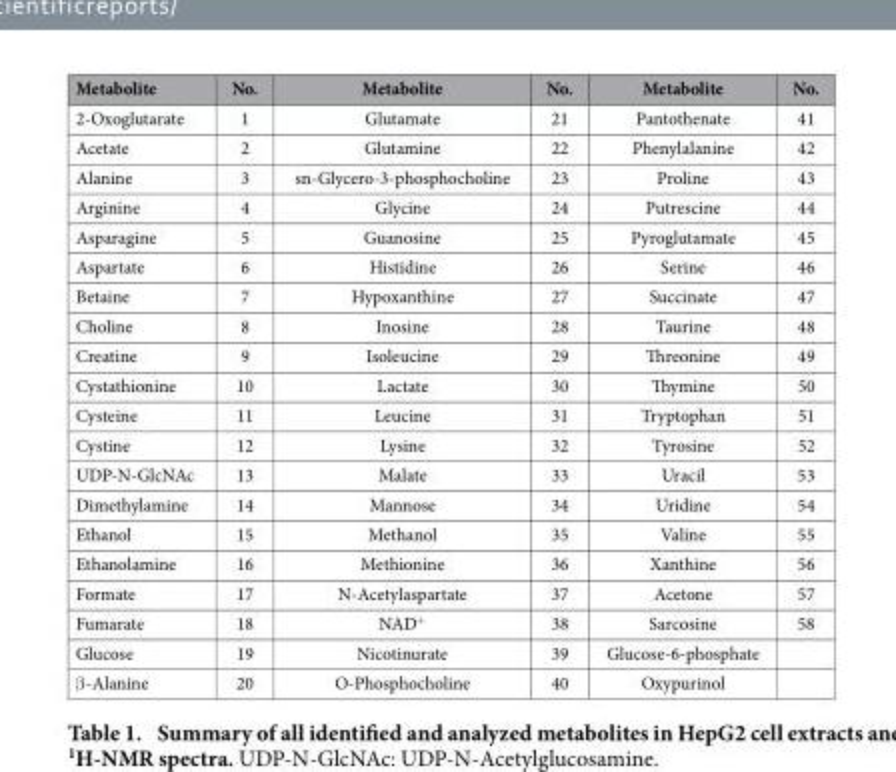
<table><thead><tr><td>Metabolite</td><td>No.</td><td>Metabolite</td><td>No.</td><td>Metabolite</td><td>No.</td></tr></thead><tbody><tr><td>2-Oxoglutarate</td><td>1</td><td>Glutamate</td><td>21</td><td>Pantothenate</td><td>41</td></tr><tr><td>Acetate</td><td>2</td><td>Glutamine</td><td>22</td><td>Phenylalanine</td><td>42</td></tr><tr><td>Alanine</td><td>3</td><td>sn-Glycero-3-phosphocholine</td><td>23</td><td>Proline</td><td>43</td></tr><tr><td>Arginine</td><td>4</td><td>Glycine</td><td>24</td><td>Putrescine</td><td>44</td></tr><tr><td>Asparagine</td><td>5</td><td>Guanosine</td><td>25</td><td>Pyroglutamate</td><td>45</td></tr><tr><td>Aspartate</td><td>6</td><td>Histidine</td><td>26</td><td>Serine</td><td>46</td></tr><tr><td>Betaine</td><td>7</td><td>Hypoxanthine</td><td>27</td><td>Succinate</td><td>47</td></tr><tr><td>Choline</td><td>8</td><td>Inosine</td><td>28</td><td>Taurine</td><td>48</td></tr><tr><td>Creatine</td><td>9</td><td>Isoleucine</td><td>29</td><td>Threonine</td><td>49</td></tr><tr><td>Cystathionine</td><td>10</td><td>Lactate</td><td>30</td><td>Thymine</td><td>50</td></tr><tr><td>Cysteine</td><td>11</td><td>Leucine</td><td>31</td><td>Tryptophan</td><td>51</td></tr><tr><td>Cystine</td><td>12</td><td>Lysine</td><td>32</td><td>Tyrosine</td><td>52</td></tr><tr><td>UDP-N-GlcNAc</td><td>13</td><td>Malate</td><td>33</td><td>Uracil</td><td>53</td></tr><tr><td>Dimethylamine</td><td>14</td><td>Mannose</td><td>34</td><td>Uridine</td><td>54</td></tr><tr><td>Ethanol</td><td>15</td><td>Methanol</td><td>35</td><td>Valine</td><td>55</td></tr><tr><td>Ethanolamine</td><td>16</td><td>Methionine</td><td>36</td><td>Xanthine</td><td>56</td></tr><tr><td>Formate</td><td>17</td><td>N-Acetylaspartate</td><td>37</td><td>Acetone</td><td>57</td></tr><tr><td>Fumarate</td><td>18</td><td>NAD<sup>+</sup></td><td>38</td><td>Sarcosine</td><td>58</td></tr><tr><td>Glucose</td><td>19</td><td>Nicotinurate</td><td>39</td><td>Glucose-6-phosphate</td><td></td></tr><tr><td>β -Alanine</td><td>20</td><td>O-Phosphocholine</td><td>40</td><td>Oxypurinol</td><td></td></tr></tbody></table>